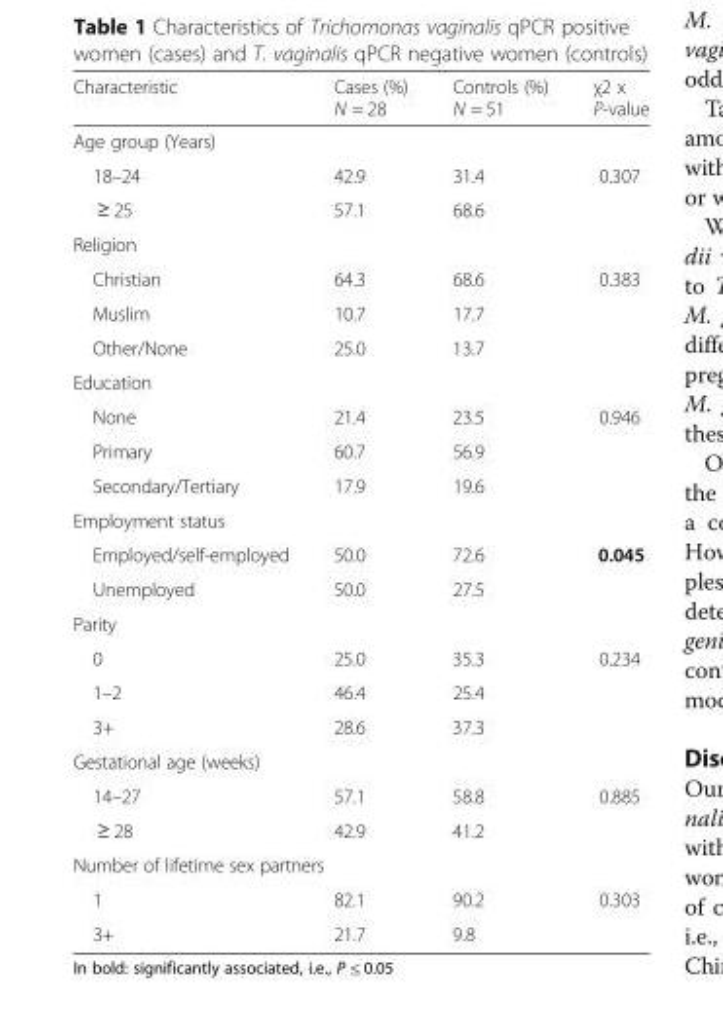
<table><thead><tr><td>Characteristic</td><td>Cases (%) N = 28</td><td>Controls (%) N = 51</td><td>χ2 x P-value</td></tr></thead><tbody><tr><td colspan="4">Age group (Years)</td></tr><tr><td>18–24</td><td>42.9</td><td>31.4</td><td>0.307</td></tr><tr><td>≥ 25</td><td>57.1</td><td>68.6</td><td></td></tr><tr><td colspan="4">Religion</td></tr><tr><td>Christian</td><td>64.3</td><td>68.6</td><td>0.383</td></tr><tr><td>Muslim</td><td>10.7</td><td>17.7</td><td></td></tr><tr><td>Other/None</td><td>25.0</td><td>13.7</td><td></td></tr><tr><td colspan="4">Education</td></tr><tr><td>None</td><td>21.4</td><td>23.5</td><td>0.946</td></tr><tr><td>Primary</td><td>60.7</td><td>56.9</td><td></td></tr><tr><td>Secondary/Tertiary</td><td>17.9</td><td>19.6</td><td></td></tr><tr><td colspan="4">Employment status</td></tr><tr><td>Employed/self-employed</td><td>50.0</td><td>72.6</td><td>0.045</td></tr><tr><td>Unemployed</td><td>50.0</td><td>27.5</td><td></td></tr><tr><td colspan="4">Parity</td></tr><tr><td>0</td><td>25.0</td><td>35.3</td><td>0.234</td></tr><tr><td>1–2</td><td>46.4</td><td>25.4</td><td></td></tr><tr><td>3+</td><td>28.6</td><td>37.3</td><td></td></tr><tr><td colspan="4">Gestational age (weeks)</td></tr><tr><td>14–27</td><td>57.1</td><td>58.8</td><td>0.885</td></tr><tr><td>≥ 28</td><td>42.9</td><td>41.2</td><td></td></tr><tr><td colspan="4">Number of lifetime sex partners</td></tr><tr><td>1</td><td>82.1</td><td>90.2</td><td>0.303</td></tr><tr><td>3+</td><td>21.7</td><td>9.8</td><td></td></tr></tbody></table>